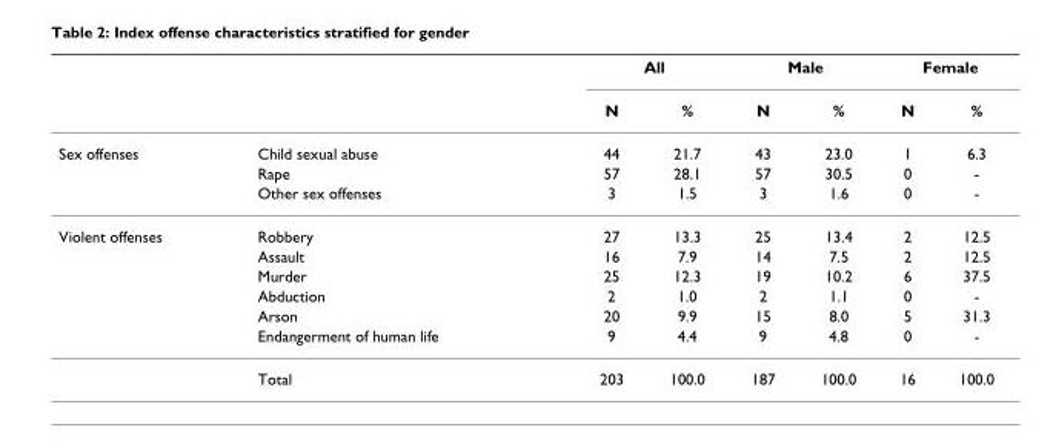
<table><thead><tr><td rowspan="2"></td><td rowspan="2"></td><td colspan="2">All</td><td colspan="2">Male</td><td colspan="2">Female</td></tr><tr><td>N</td><td>%</td><td>N</td><td>%</td><td>N</td><td>%</td></tr></thead><tbody><tr><td rowspan="3">Sex offenses</td><td>Child sexual abuse</td><td>44</td><td>21.7</td><td>43</td><td>23.0</td><td>1</td><td>6.3</td></tr><tr><td>Rape</td><td>57</td><td>28.1</td><td>57</td><td>30.5</td><td>0</td><td>-</td></tr><tr><td>Other sex offenses</td><td>3</td><td>1.5</td><td>3</td><td>1.6</td><td>0</td><td>-</td></tr><tr><td rowspan="7">Violent offenses</td><td>Robbery</td><td>27</td><td>13.3</td><td>25</td><td>13.4</td><td>2</td><td>12.5</td></tr><tr><td>Assault</td><td>16</td><td>7.9</td><td>14</td><td>7.5</td><td>2</td><td>12.5</td></tr><tr><td>Murder</td><td>25</td><td>12.3</td><td>19</td><td>10.2</td><td>6</td><td>37.5</td></tr><tr><td>Abduction</td><td>2</td><td>1.0</td><td>2</td><td>1.1</td><td>0</td><td>-</td></tr><tr><td>Arson</td><td>20</td><td>9.9</td><td>15</td><td>8.0</td><td>5</td><td>31.3</td></tr><tr><td>Endangerment of human life</td><td>9</td><td>4.4</td><td>9</td><td>4.8</td><td>0</td><td>-</td></tr><tr><td>Total</td><td>203</td><td>100.0</td><td>187</td><td>100.0</td><td>16</td><td>100.0</td></tr></tbody></table>